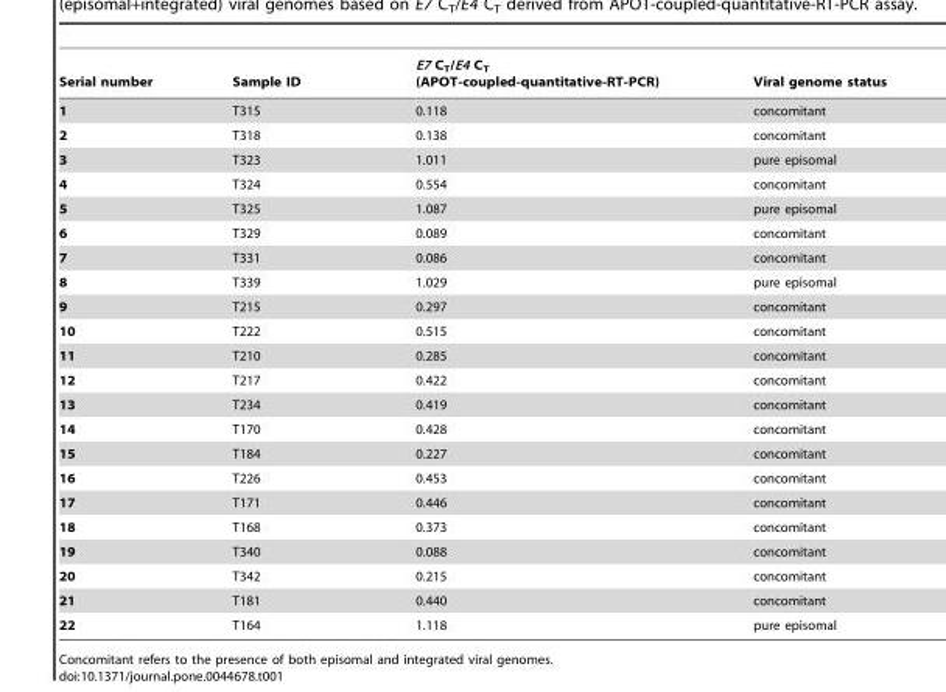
<table><thead><tr><td>Serial number</td><td>Sample ID</td><td>E7 C<sub>T</sub>/E4 C<sub>T</sub> (APOT-coupled-quantitative-RT-PCR)</td><td>Viral genome status</td></tr></thead><tbody><tr><td>1</td><td>T315</td><td>0.118</td><td>concomitant</td></tr><tr><td>2</td><td>T318</td><td>0.138</td><td>concomitant</td></tr><tr><td>3</td><td>T323</td><td>1.011</td><td>pure episomal</td></tr><tr><td>4</td><td>T324</td><td>0.554</td><td>concomitant</td></tr><tr><td>5</td><td>T325</td><td>1.087</td><td>pure episomal</td></tr><tr><td>6</td><td>T329</td><td>0.089</td><td>concomitant</td></tr><tr><td>7</td><td>T331</td><td>0.086</td><td>concomitant</td></tr><tr><td>8</td><td>T339</td><td>1.029</td><td>pure episomal</td></tr><tr><td>9</td><td>T215</td><td>0.297</td><td>concomitant</td></tr><tr><td>10</td><td>T222</td><td>0.515</td><td>concomitant</td></tr><tr><td>11</td><td>T210</td><td>0.285</td><td>concomitant</td></tr><tr><td>12</td><td>T217</td><td>0.422</td><td>concomitant</td></tr><tr><td>13</td><td>T234</td><td>0.419</td><td>concomitant</td></tr><tr><td>14</td><td>T170</td><td>0.428</td><td>concomitant</td></tr><tr><td>15</td><td>T184</td><td>0.227</td><td>concomitant</td></tr><tr><td>16</td><td>T226</td><td>0.453</td><td>concomitant</td></tr><tr><td>17</td><td>T171</td><td>0.446</td><td>concomitant</td></tr><tr><td>18</td><td>T168</td><td>0.373</td><td>concomitant</td></tr><tr><td>19</td><td>T340</td><td>0.088</td><td>concomitant</td></tr><tr><td>20</td><td>T342</td><td>0.215</td><td>concomitant</td></tr><tr><td>21</td><td>T181</td><td>0.440</td><td>concomitant</td></tr><tr><td>22</td><td>T164</td><td>1.118</td><td>pure episomal</td></tr></tbody></table>